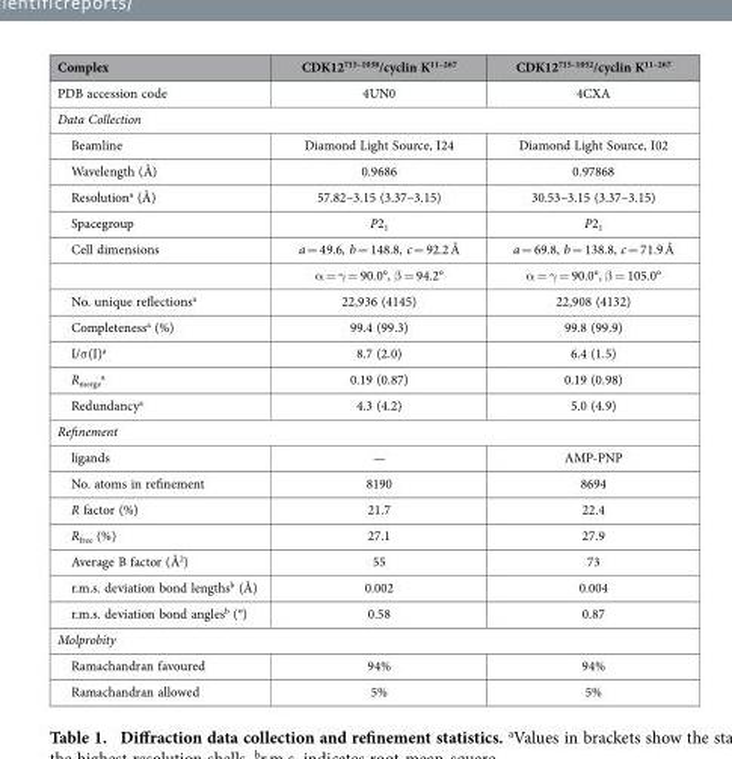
<table><thead><tr><td>Complex</td><td>CDK12<sup>715–1038</sup>/cyclin K<sup>11–267</sup></td><td>CDK12<sup>715–1052</sup>/cyclin K<sup>11–267</sup></td></tr></thead><tbody><tr><td>PDB accession code</td><td>4UN0</td><td>4CXA</td></tr><tr><td colspan="3">Data Collection</td></tr><tr><td>Beamline</td><td>Diamond Light Source, I24</td><td>Diamond Light Source, I02</td></tr><tr><td>Wavelength (Å)</td><td>0.9686</td><td>0.97868</td></tr><tr><td>Resolution<sup>a</sup> (Å)</td><td>57.82–3.15 (3.37–3.15)</td><td>30.53–3.15 (3.37–3.15)</td></tr><tr><td>Spacegroup</td><td>P2<sub>1</sub></td><td>P2<sub>1</sub></td></tr><tr><td rowspan="2">Cell dimensions</td><td>a = 49.6, b = 148.8, c = 92.2 Å</td><td>a = 69.8, b = 138.8, c = 71.9 Å</td></tr><tr><td>α = γ = 90.0°, β = 94.2°</td><td>α = γ = 90.0°, β = 105.0°</td></tr><tr><td>No. unique reflections<sup>a</sup></td><td>22,936 (4145)</td><td>22,908 (4132)</td></tr><tr><td>Completeness<sup>a</sup> (%)</td><td>99.4 (99.3)</td><td>99.8 (99.9)</td></tr><tr><td>I/σ (I)<sup>a</sup></td><td>8.7 (2.0)</td><td>6.4 (1.5)</td></tr><tr><td>R<sub>merge</sub> <sup>a</sup></td><td>0.19 (0.87)</td><td>0.19 (0.98)</td></tr><tr><td>Redundancy<sup>a</sup></td><td>4.3 (4.2)</td><td>5.0 (4.9)</td></tr><tr><td colspan="3">Refinement</td></tr><tr><td>ligands</td><td>—</td><td>AMP-PNP</td></tr><tr><td>No. atoms in refinement</td><td>8190</td><td>8694</td></tr><tr><td>R factor (%)</td><td>21.7</td><td>22.4</td></tr><tr><td>R<sub>free</sub> (%)</td><td>27.1</td><td>27.9</td></tr><tr><td>Average B factor (Å<sup>2</sup>)</td><td>55</td><td>73</td></tr><tr><td>r.m.s. deviation bond lengths<sup>b</sup> (Å)</td><td>0.002</td><td>0.004</td></tr><tr><td>r.m.s. deviation bond angles<sup>b</sup> (°)</td><td>0.58</td><td>0.87</td></tr><tr><td colspan="3">Molprobity</td></tr><tr><td>Ramachandran favoured</td><td>94%</td><td>94%</td></tr><tr><td>Ramachandran allowed</td><td>5%</td><td>5%</td></tr></tbody></table>